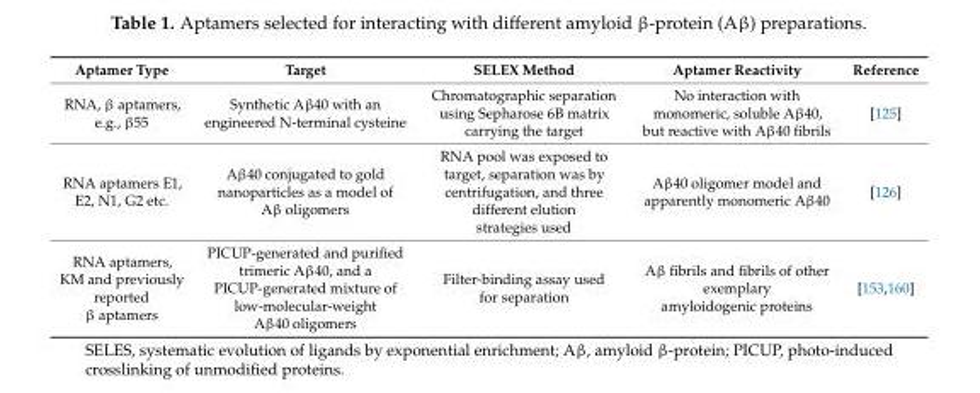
<table><thead><tr><td>Aptamer Type</td><td>Target</td><td>SELEX Method</td><td>Aptamer Reactivity</td><td>Reference</td></tr></thead><tbody><tr><td>RNA, β aptamers, e.g., β55</td><td>Synthetic Aβ40 with an engineered N-terminal cysteine</td><td>Chromatographic separation using Sepharose 6B matrix carrying the target</td><td>No interaction with monomeric, soluble Aβ40, but reactive with Aβ40 fibrils</td><td>[125]</td></tr><tr><td>RNA aptamers E1, E2, N1, G2 etc.</td><td>Aβ40 conjugated to gold nanoparticles as a model of Aβ oligomers</td><td>RNA pool was exposed to target, separation was by centrifugation, and three different elution strategies used</td><td>Aβ40 oligomer model and apparently monomeric Aβ40</td><td>[126]</td></tr><tr><td>RNA aptamers, KM and previously reported β aptamers</td><td>PICUP-generated and purified trimeric Aβ40, and a PICUP-generated mixture of low-molecular-weight Aβ40 oligomers</td><td>Filter-binding assay used for separation</td><td>Aβ fibrils and fibrils of other exemplary amyloidogenic proteins</td><td>[153,160]</td></tr></tbody></table>